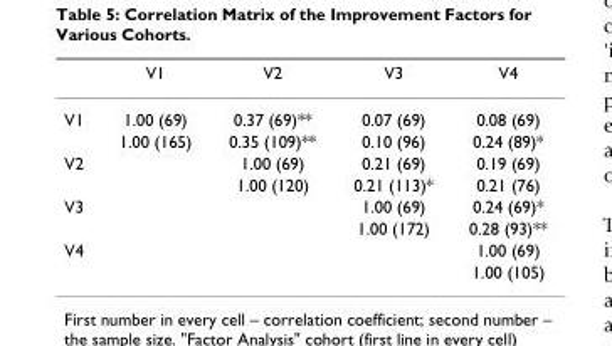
<table><thead><tr><td></td><td>V1</td><td>V2</td><td>V3</td><td>V4</td></tr></thead><tbody><tr><td rowspan="2">V1</td><td>1.00 (69)</td><td>0.37 (69)**</td><td>0.07 (69)</td><td>0.08 (69)</td></tr><tr><td>1.00 (165)</td><td>0.35 (109)**</td><td>0.10 (96)</td><td>0.24 (89)*</td></tr><tr><td rowspan="2">V2</td><td></td><td>1.00 (69)</td><td>0.21 (69)</td><td>0.19 (69)</td></tr><tr><td></td><td>1.00 (120)</td><td>0.21 (113)*</td><td>0.21 (76)</td></tr><tr><td rowspan="2">V3</td><td></td><td></td><td>1.00 (69)</td><td>0.24 (69)*</td></tr><tr><td></td><td></td><td>1.00 (172)</td><td>0.28 (93)**</td></tr><tr><td rowspan="2">V4</td><td></td><td></td><td></td><td>1.00 (69)</td></tr><tr><td></td><td></td><td></td><td>1.00 (105)</td></tr></tbody></table>